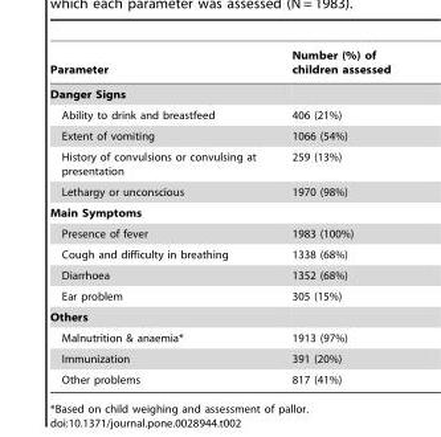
<table><thead><tr><td>Parameter</td><td>Number (%) of children assessed</td></tr></thead><tbody><tr><td colspan="2">Danger Signs</td></tr><tr><td>Ability to drink and breastfeed</td><td>406 (21%)</td></tr><tr><td>Extent of vomiting</td><td>1066 (54%)</td></tr><tr><td>History of convulsions or convulsing at presentation</td><td>259 (13%)</td></tr><tr><td>Lethargy or unconscious</td><td>1970 (98%)</td></tr><tr><td colspan="2">Main Symptoms</td></tr><tr><td>Presence of fever</td><td>1983 (100%)</td></tr><tr><td>Cough and difficulty in breathing</td><td>1338 (68%)</td></tr><tr><td>Diarrhoea</td><td>1352 (68%)</td></tr><tr><td>Ear problem</td><td>305 (15%)</td></tr><tr><td colspan="2">Others</td></tr><tr><td>Malnutrition &amp; anaemia*</td><td>1913 (97%)</td></tr><tr><td>Immunization</td><td>391 (20%)</td></tr><tr><td>Other problems</td><td>817 (41%)</td></tr></tbody></table>